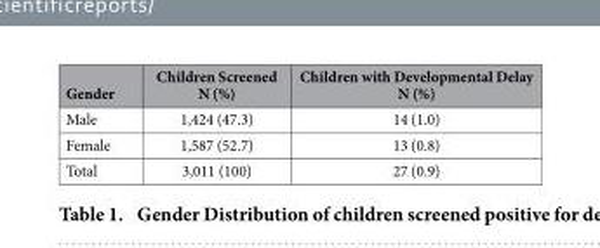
<table><thead><tr><td>Gender</td><td>Children Screened N (%)</td><td>Children with Developmental Delay N (%)</td></tr></thead><tbody><tr><td>Male</td><td>1,424 (47.3)</td><td>14 (1.0)</td></tr><tr><td>Female</td><td>1,587 (52.7)</td><td>13 (0.8)</td></tr><tr><td>Total</td><td>3,011 (100)</td><td>27 (0.9)</td></tr></tbody></table>